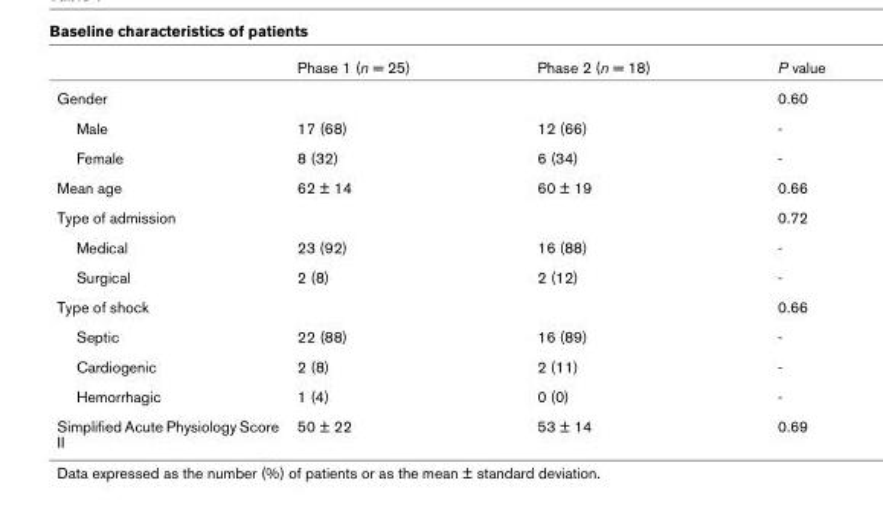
<table><thead><tr><td></td><td>Phase 1 (n = 25)</td><td>Phase 2 (n = 18)</td><td>P value</td></tr></thead><tbody><tr><td>Gender</td><td></td><td></td><td>0.60</td></tr><tr><td>Male</td><td>17 (68)</td><td>12 (66)</td><td>-</td></tr><tr><td>Female</td><td>8 (32)</td><td>6 (34)</td><td>-</td></tr><tr><td>Mean age</td><td>62 ± 14</td><td>60 ± 19</td><td>0.66</td></tr><tr><td>Type of admission</td><td></td><td></td><td>0.72</td></tr><tr><td>Medical</td><td>23 (92)</td><td>16 (88)</td><td>-</td></tr><tr><td>Surgical</td><td>2 (8)</td><td>2 (12)</td><td>-</td></tr><tr><td>Type of shock</td><td></td><td></td><td>0.66</td></tr><tr><td>Septic</td><td>22 (88)</td><td>16 (89)</td><td>-</td></tr><tr><td>Cardiogenic</td><td>2 (8)</td><td>2 (11)</td><td>-</td></tr><tr><td>Hemorrhagic</td><td>1 (4)</td><td>0 (0)</td><td>-</td></tr><tr><td>Simplified Acute Physiology Score II</td><td>50 ± 22</td><td>53 ± 14</td><td>0.69</td></tr></tbody></table>